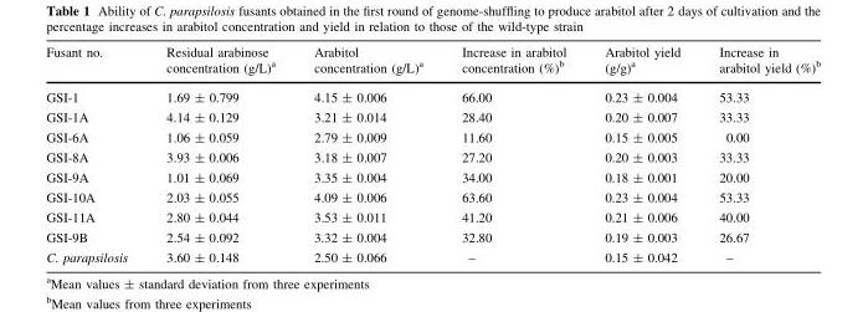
<table><thead><tr><td>Fusant no.</td><td>Residual arabinose concentration (g/L)<sup>a</sup></td><td>Arabitol concentration (g/L)<sup>a</sup></td><td>Increase in arabitol concentration (%)<sup>b</sup></td><td>Arabitol yield (g/g)<sup>a</sup></td><td>Increase in arabitol yield (%)<sup>b</sup></td></tr></thead><tbody><tr><td>GSI-1</td><td>1.69 ± 0.799</td><td>4.15 ± 0.006</td><td>66.00</td><td>0.23 ± 0.004</td><td>53.33</td></tr><tr><td>GSI-1A</td><td>4.14 ± 0.129</td><td>3.21 ± 0.014</td><td>28.40</td><td>0.20 ± 0.007</td><td>33.33</td></tr><tr><td>GSI-6A</td><td>1.06 ± 0.059</td><td>2.79 ± 0.009</td><td>11.60</td><td>0.15 ± 0.005</td><td>0.00</td></tr><tr><td>GSI-8A</td><td>3.93 ± 0.006</td><td>3.18 ± 0.007</td><td>27.20</td><td>0.20 ± 0.003</td><td>33.33</td></tr><tr><td>GSI-9A</td><td>1.01 ± 0.069</td><td>3.35 ± 0.004</td><td>34.00</td><td>0.18 ± 0.001</td><td>20.00</td></tr><tr><td>GSI-10A</td><td>2.03 ± 0.055</td><td>4.09 ± 0.006</td><td>63.60</td><td>0.23 ± 0.004</td><td>53.33</td></tr><tr><td>GSI-11A</td><td>2.80 ± 0.044</td><td>3.53 ± 0.011</td><td>41.20</td><td>0.21 ± 0.006</td><td>40.00</td></tr><tr><td>GSI-9B</td><td>2.54 ± 0.092</td><td>3.32 ± 0.004</td><td>32.80</td><td>0.19 ± 0.003</td><td>26.67</td></tr><tr><td>C. parapsilosis</td><td>3.60 ± 0.148</td><td>2.50 ± 0.066</td><td>–</td><td>0.15 ± 0.042</td><td>–</td></tr></tbody></table>